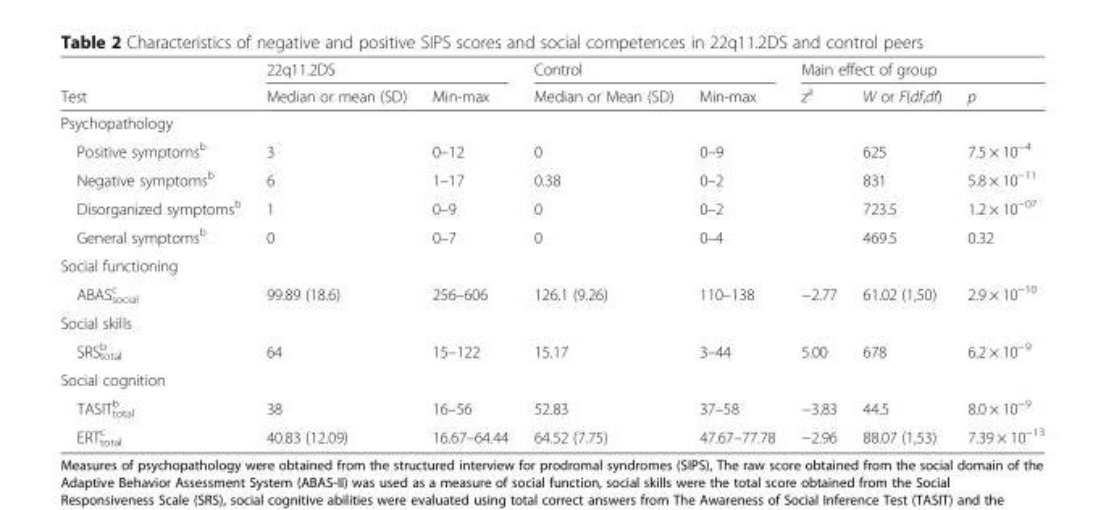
<table><thead><tr><td rowspan="2">Test</td><td colspan="2">22q11.2DS</td><td colspan="2">Control</td><td colspan="3">Main effect of group</td></tr><tr><td>Median or mean (SD)</td><td>Min-max</td><td>Median or Mean (SD)</td><td>Min-max</td><td>z<sup>a</sup></td><td>W or F(df,df)</td><td>p</td></tr></thead><tbody><tr><td colspan="8">Psychopathology</td></tr><tr><td>Positive symptoms<sup>b</sup></td><td>3</td><td>0–12</td><td>0</td><td>0–9</td><td></td><td>625</td><td>7.5 × 10<sup>−4</sup></td></tr><tr><td>Negative symptoms<sup>b</sup></td><td>6</td><td>1–17</td><td>0.38</td><td>0–2</td><td></td><td>831</td><td>5.8 × 10<sup>−11</sup></td></tr><tr><td>Disorganized symptoms<sup>b</sup></td><td>1</td><td>0–9</td><td>0</td><td>0–2</td><td></td><td>723.5</td><td>1.2 × 10<sup>−07</sup></td></tr><tr><td>General symptoms<sup>b</sup></td><td>0</td><td>0–7</td><td>0</td><td>0–4</td><td></td><td>469.5</td><td>0.32</td></tr><tr><td colspan="8">Social functioning</td></tr><tr><td>ABAS<sub>social</sub> <sup>c</sup></td><td>99.89 (18.6)</td><td>256–606</td><td>126.1 (9.26)</td><td>110–138</td><td>−2.77</td><td>61.02 (1,50)</td><td>2.9 × 10<sup>−10</sup></td></tr><tr><td colspan="8">Social skills</td></tr><tr><td>SRS<sub>total</sub> <sup>b</sup></td><td>64</td><td>15–122</td><td>15.17</td><td>3–44</td><td>5.00</td><td>678</td><td>6.2 × 10<sup>−9</sup></td></tr><tr><td colspan="8">Social cognition</td></tr><tr><td>TASIT<sub>total</sub> <sup>b</sup></td><td>38</td><td>16–56</td><td>52.83</td><td>37–58</td><td>−3.83</td><td>44.5</td><td>8.0 × 10<sup>−9</sup></td></tr><tr><td>ERT<sub>total</sub> <sup>c</sup></td><td>40.83 (12.09)</td><td>16.67–64.44</td><td>64.52 (7.75)</td><td>47.67–77.78</td><td>−2.96</td><td>88.07 (1,53)</td><td>7.39 × 10<sup>−13</sup></td></tr></tbody></table>